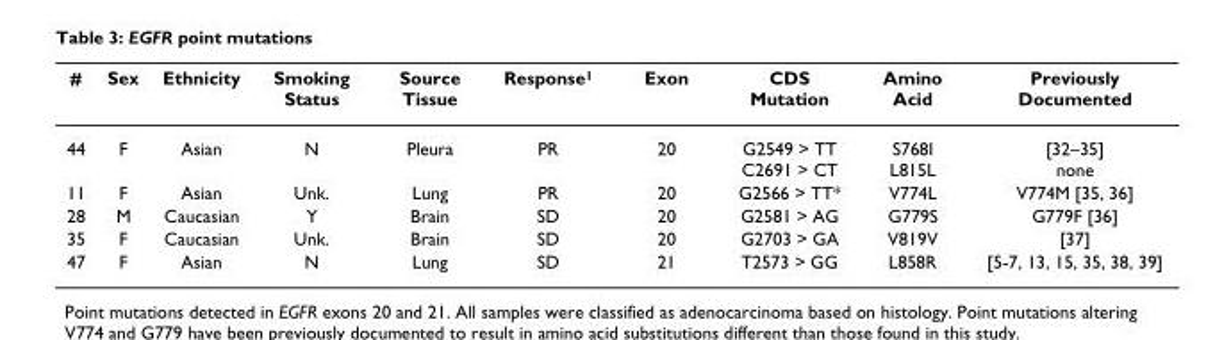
<table><thead><tr><td>#</td><td>Sex</td><td>Ethnicity</td><td>Smoking Status</td><td>Source Tissue</td><td>Response<sup>1</sup></td><td>Exon</td><td>CDS Mutation</td><td>Amino Acid</td><td>Previously Documented</td></tr></thead><tbody><tr><td>44</td><td>F</td><td>Asian</td><td>N</td><td>Pleura</td><td>PR</td><td>20</td><td>G2549 &gt; TT C2691 &gt; CT</td><td>S768I L815L</td><td>[32–35] none</td></tr><tr><td>11</td><td>F</td><td>Asian</td><td>Unk.</td><td>Lung</td><td>PR</td><td>20</td><td>G2566 &gt; TT*</td><td>V774L</td><td>V774M [35, 36]</td></tr><tr><td>28</td><td>M</td><td>Caucasian</td><td>Y</td><td>Brain</td><td>SD</td><td>20</td><td>G2581 &gt; AG</td><td>G779S</td><td>G779F [36]</td></tr><tr><td>35</td><td>F</td><td>Caucasian</td><td>Unk.</td><td>Brain</td><td>SD</td><td>20</td><td>G2703 &gt; GA</td><td>V819V</td><td>[37]</td></tr><tr><td>47</td><td>F</td><td>Asian</td><td>N</td><td>Lung</td><td>SD</td><td>21</td><td>T2573 &gt; GG</td><td>L858R</td><td>[5-7, 13, 15, 35, 38, 39]</td></tr></tbody></table>